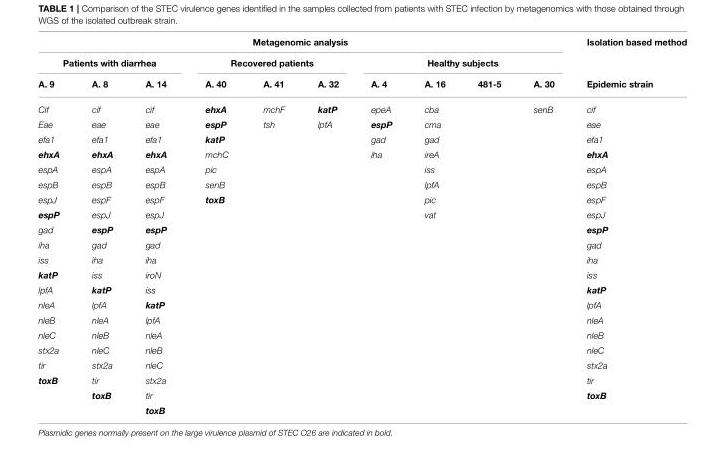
<table><thead><tr><td colspan="10">Metagenomic analysis</td><td rowspan="3">Isolation based method Epidemic strain</td></tr><tr><td colspan="3">Patients with diarrhea</td><td colspan="3">Recovered patients</td><td colspan="4">Healthy subjects</td></tr><tr><td>A. 9</td><td>A. 8</td><td>A. 14</td><td>A. 40</td><td>A. 41</td><td>A. 32</td><td>A. 4</td><td>A. 16</td><td>481-5</td><td>A. 30</td></tr></thead><tbody><tr><td>Cif</td><td>cif</td><td>cif</td><td>ehxA</td><td>mchF</td><td>katP</td><td>epeA</td><td>cba</td><td></td><td>senB</td><td>cif</td></tr><tr><td>Eae</td><td>eae</td><td>eae</td><td>espP</td><td>tsh</td><td>lpfA</td><td>espP</td><td>cma</td><td></td><td></td><td>eae</td></tr><tr><td>efa1</td><td>efa1</td><td>efa1</td><td>katP</td><td></td><td></td><td>gad</td><td>gad</td><td></td><td></td><td>efa1</td></tr><tr><td>ehxA</td><td>ehxA</td><td>ehxA</td><td>mchC</td><td></td><td></td><td>iha</td><td>ireA</td><td></td><td></td><td>ehxA</td></tr><tr><td>espA</td><td>espA</td><td>espA</td><td>pic</td><td></td><td></td><td></td><td>iss</td><td></td><td></td><td>espA</td></tr><tr><td>espB</td><td>espB</td><td>espB</td><td>senB</td><td></td><td></td><td></td><td>lpfA</td><td></td><td></td><td>espB</td></tr><tr><td>espJ</td><td>espF</td><td>espF</td><td>toxB</td><td></td><td></td><td></td><td>pic</td><td></td><td></td><td>espF</td></tr><tr><td>espP</td><td>espJ</td><td>espJ</td><td></td><td></td><td></td><td></td><td>vat</td><td></td><td></td><td>espJ</td></tr><tr><td>gad</td><td>espP</td><td>espP</td><td></td><td></td><td></td><td></td><td></td><td></td><td></td><td>espP</td></tr><tr><td>iha</td><td>gad</td><td>gad</td><td></td><td></td><td></td><td></td><td></td><td></td><td></td><td>gad</td></tr><tr><td>iss</td><td>iha</td><td>iha</td><td></td><td></td><td></td><td></td><td></td><td></td><td></td><td>iha</td></tr><tr><td>katP</td><td>iss</td><td>iroN</td><td></td><td></td><td></td><td></td><td></td><td></td><td></td><td>iss</td></tr><tr><td>lpfA</td><td>katP</td><td>iss</td><td></td><td></td><td></td><td></td><td></td><td></td><td></td><td>katP</td></tr><tr><td>nleA</td><td>lpfA</td><td>katP</td><td></td><td></td><td></td><td></td><td></td><td></td><td></td><td>lpfA</td></tr><tr><td>nleB</td><td>nleA</td><td>lpfA</td><td></td><td></td><td></td><td></td><td></td><td></td><td></td><td>nleA</td></tr><tr><td>nleC</td><td>nleB</td><td>nleA</td><td></td><td></td><td></td><td></td><td></td><td></td><td></td><td>nleB</td></tr><tr><td>stx2a</td><td>nleC</td><td>nleB</td><td></td><td></td><td></td><td></td><td></td><td></td><td></td><td>nleC</td></tr><tr><td>tir</td><td>stx2a</td><td>nleC</td><td></td><td></td><td></td><td></td><td></td><td></td><td></td><td>stx2a</td></tr><tr><td rowspan="3">toxB</td><td>tir</td><td>stx2a</td><td></td><td></td><td></td><td></td><td></td><td></td><td></td><td>tir</td></tr><tr><td>toxB</td><td>tir</td><td></td><td></td><td></td><td></td><td></td><td></td><td></td><td>toxB</td></tr><tr><td></td><td>toxB</td><td></td><td></td><td></td><td></td><td></td><td></td><td></td><td></td></tr></tbody></table>